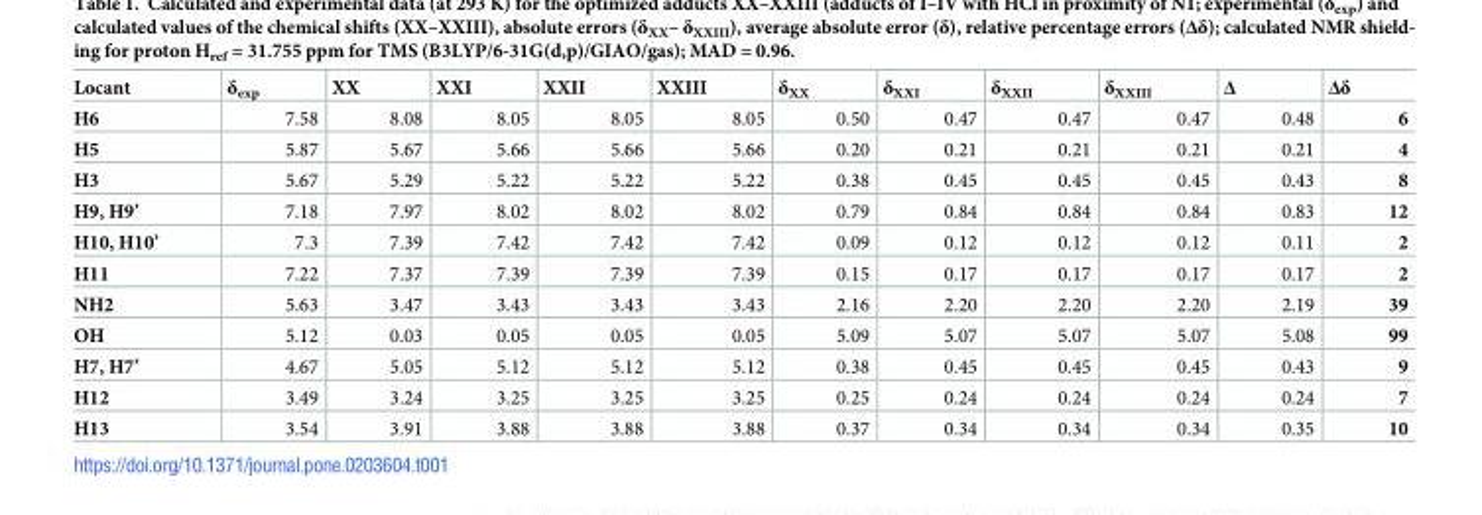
<table><thead><tr><td>Locant</td><td>δ<sub>exp</sub></td><td>XX</td><td>XXI</td><td>XXII</td><td>XXIII</td><td>δ<sub>XX</sub></td><td>δ<sub>XXI</sub></td><td>δ<sub>XXII</sub></td><td>δ<sub>XXIII</sub></td><td>Δ</td><td>Δδ</td></tr></thead><tbody><tr><td>H6</td><td>7.58</td><td>8.08</td><td>8.05</td><td>8.05</td><td>8.05</td><td>0.50</td><td>0.47</td><td>0.47</td><td>0.47</td><td>0.48</td><td>6</td></tr><tr><td>H5</td><td>5.87</td><td>5.67</td><td>5.66</td><td>5.66</td><td>5.66</td><td>0.20</td><td>0.21</td><td>0.21</td><td>0.21</td><td>0.21</td><td>4</td></tr><tr><td>H3</td><td>5.67</td><td>5.29</td><td>5.22</td><td>5.22</td><td>5.22</td><td>0.38</td><td>0.45</td><td>0.45</td><td>0.45</td><td>0.43</td><td>8</td></tr><tr><td>H9, H9’</td><td>7.18</td><td>7.97</td><td>8.02</td><td>8.02</td><td>8.02</td><td>0.79</td><td>0.84</td><td>0.84</td><td>0.84</td><td>0.83</td><td>12</td></tr><tr><td>H10, H10’</td><td>7.3</td><td>7.39</td><td>7.42</td><td>7.42</td><td>7.42</td><td>0.09</td><td>0.12</td><td>0.12</td><td>0.12</td><td>0.11</td><td>2</td></tr><tr><td>H11</td><td>7.22</td><td>7.37</td><td>7.39</td><td>7.39</td><td>7.39</td><td>0.15</td><td>0.17</td><td>0.17</td><td>0.17</td><td>0.17</td><td>2</td></tr><tr><td>NH2</td><td>5.63</td><td>3.47</td><td>3.43</td><td>3.43</td><td>3.43</td><td>2.16</td><td>2.20</td><td>2.20</td><td>2.20</td><td>2.19</td><td>39</td></tr><tr><td>OH</td><td>5.12</td><td>0.03</td><td>0.05</td><td>0.05</td><td>0.05</td><td>5.09</td><td>5.07</td><td>5.07</td><td>5.07</td><td>5.08</td><td>99</td></tr><tr><td>H7, H7’</td><td>4.67</td><td>5.05</td><td>5.12</td><td>5.12</td><td>5.12</td><td>0.38</td><td>0.45</td><td>0.45</td><td>0.45</td><td>0.43</td><td>9</td></tr><tr><td>H12</td><td>3.49</td><td>3.24</td><td>3.25</td><td>3.25</td><td>3.25</td><td>0.25</td><td>0.24</td><td>0.24</td><td>0.24</td><td>0.24</td><td>7</td></tr><tr><td>H13</td><td>3.54</td><td>3.91</td><td>3.88</td><td>3.88</td><td>3.88</td><td>0.37</td><td>0.34</td><td>0.34</td><td>0.34</td><td>0.35</td><td>10</td></tr></tbody></table>